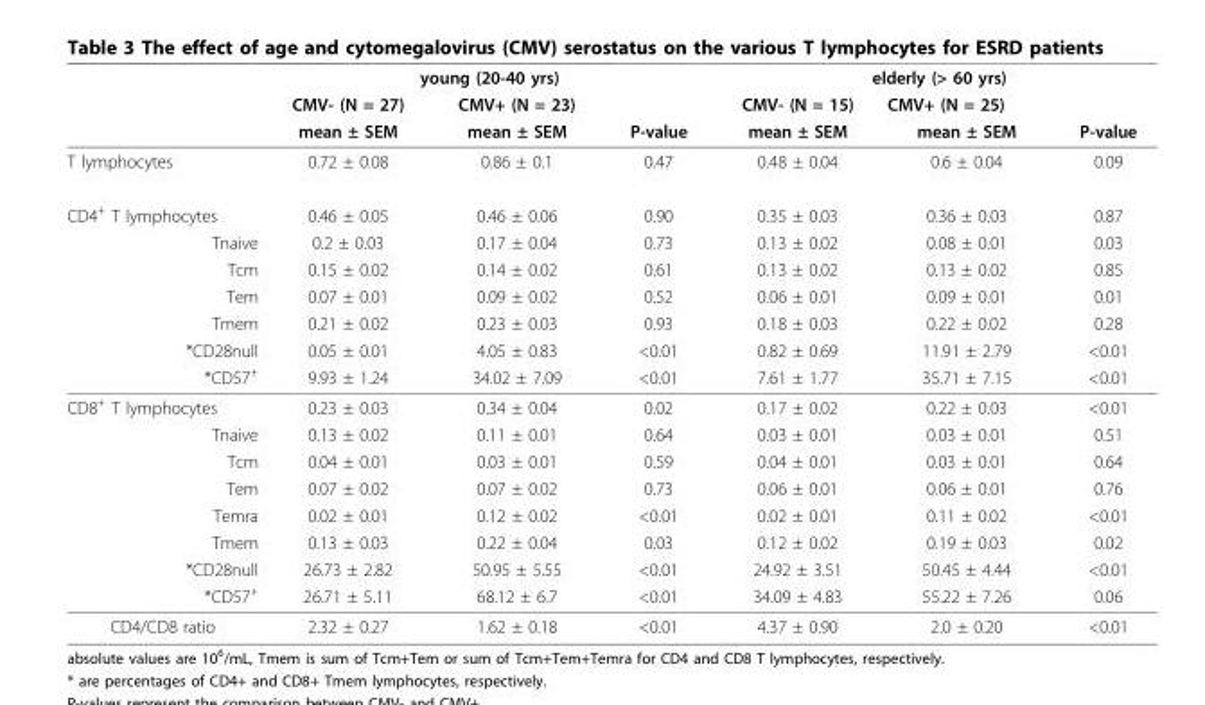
<table><thead><tr><td rowspan="3"></td><td colspan="3">young (20-40 yrs)</td><td colspan="3">elderly (&gt; 60 yrs)</td></tr><tr><td rowspan="2">CMV- (N = 27) mean ± SEM</td><td rowspan="2">CMV+ (N = 23) mean ± SEM</td><td rowspan="2">P-value</td><td rowspan="2">CMV- (N = 15) mean ± SEM</td><td rowspan="2">CMV+ (N = 25) mean ± SEM</td><td rowspan="2">P-value</td></tr><tr></tr></thead><tbody><tr><td>T lymphocytes</td><td>0.72 ± 0.08</td><td>0.86 ± 0.1</td><td>0.47</td><td>0.48 ± 0.04</td><td>0.6 ± 0.04</td><td>0.09</td></tr><tr><td>CD4<sup>+</sup> T lymphocytes</td><td>0.46 ± 0.05</td><td>0.46 ± 0.06</td><td>0.90</td><td>0.35 ± 0.03</td><td>0.36 ± 0.03</td><td>0.87</td></tr><tr><td>Tnaive</td><td>0.2 ± 0.03</td><td>0.17 ± 0.04</td><td>0.73</td><td>0.13 ± 0.02</td><td>0.08 ± 0.01</td><td>0.03</td></tr><tr><td>Tcm</td><td>0.15 ± 0.02</td><td>0.14 ± 0.02</td><td>0.61</td><td>0.13 ± 0.02</td><td>0.13 ± 0.02</td><td>0.85</td></tr><tr><td>Tem</td><td>0.07 ± 0.01</td><td>0.09 ± 0.02</td><td>0.52</td><td>0.06 ± 0.01</td><td>0.09 ± 0.01</td><td>0.01</td></tr><tr><td>Tmem</td><td>0.21 ± 0.02</td><td>0.23 ± 0.03</td><td>0.93</td><td>0.18 ± 0.03</td><td>0.22 ± 0.02</td><td>0.28</td></tr><tr><td>*CD28null</td><td>0.05 ± 0.01</td><td>4.05 ± 0.83</td><td>&lt;0.01</td><td>0.82 ± 0.69</td><td>11.91 ± 2.79</td><td>&lt;0.01</td></tr><tr><td>*CD57<sup>+</sup></td><td>9.93 ± 1.24</td><td>34.02 ± 7.09</td><td>&lt;0.01</td><td>7.61 ± 1.77</td><td>35.71 ± 7.15</td><td>&lt;0.01</td></tr><tr><td>CD8<sup>+</sup> T lymphocytes</td><td>0.23 ± 0.03</td><td>0.34 ± 0.04</td><td>0.02</td><td>0.17 ± 0.02</td><td>0.22 ± 0.03</td><td>&lt;0.01</td></tr><tr><td>Tnaive</td><td>0.13 ± 0.02</td><td>0.11 ± 0.01</td><td>0.64</td><td>0.03 ± 0.01</td><td>0.03 ± 0.01</td><td>0.51</td></tr><tr><td>Tcm</td><td>0.04 ± 0.01</td><td>0.03 ± 0.01</td><td>0.59</td><td>0.04 ± 0.01</td><td>0.03 ± 0.01</td><td>0.64</td></tr><tr><td>Tem</td><td>0.07 ± 0.02</td><td>0.07 ± 0.02</td><td>0.73</td><td>0.06 ± 0.01</td><td>0.06 ± 0.01</td><td>0.76</td></tr><tr><td>Temra</td><td>0.02 ± 0.01</td><td>0.12 ± 0.02</td><td>&lt;0.01</td><td>0.02 ± 0.01</td><td>0.11 ± 0.02</td><td>&lt;0.01</td></tr><tr><td>Tmem</td><td>0.13 ± 0.03</td><td>0.22 ± 0.04</td><td>0.03</td><td>0.12 ± 0.02</td><td>0.19 ± 0.03</td><td>0.02</td></tr><tr><td>*CD28null</td><td>26.73 ± 2.82</td><td>50.95 ± 5.55</td><td>&lt;0.01</td><td>24.92 ± 3.51</td><td>50.45 ± 4.44</td><td>&lt;0.01</td></tr><tr><td>*CD57<sup>+</sup></td><td>26.71 ± 5.11</td><td>68.12 ± 6.7</td><td>&lt;0.01</td><td>34.09 ± 4.83</td><td>55.22 ± 7.26</td><td>0.06</td></tr><tr><td>CD4/CD8 ratio</td><td>2.32 ± 0.27</td><td>1.62 ± 0.18</td><td>&lt;0.01</td><td>4.37 ± 0.90</td><td>2.0 ± 0.20</td><td>&lt;0.01</td></tr></tbody></table>